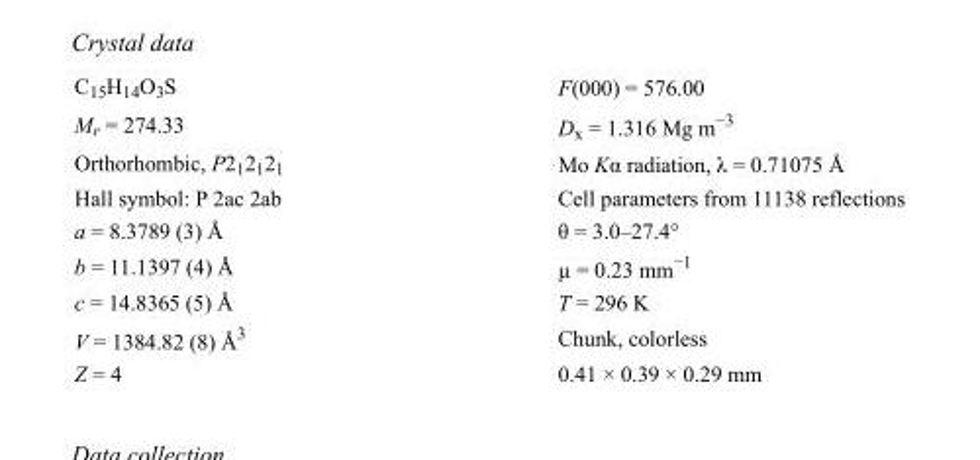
<table><tbody><tr><td>C<sub>15</sub>H<sub>14</sub>O<sub>3</sub>S</td><td>F(000) = 576.00</td></tr><tr><td>M<sub>r</sub> = 274.33</td><td>D<sub>x</sub> = 1.316 Mg m<sup>−3</sup></td></tr><tr><td>Orthorhombic, P2<sub>1</sub>2<sub>1</sub>2<sub>1</sub></td><td>Mo Kα radiation, λ = 0.71075 Å</td></tr><tr><td>Hall symbol: P 2ac 2ab</td><td>Cell parameters from 11138 reflections</td></tr><tr><td>a = 8.3789 (3) Å</td><td>θ = 3.0–27.4°</td></tr><tr><td>b = 11.1397 (4) Å</td><td>µ = 0.23 mm<sup>−1</sup></td></tr><tr><td>c = 14.8365 (5) Å</td><td>T = 296 K</td></tr><tr><td>V = 1384.82 (8) Å<sup>3</sup></td><td>Chunk, colorless</td></tr><tr><td>Z = 4</td><td>0.41 × 0.39 × 0.29 mm</td></tr></tbody></table>